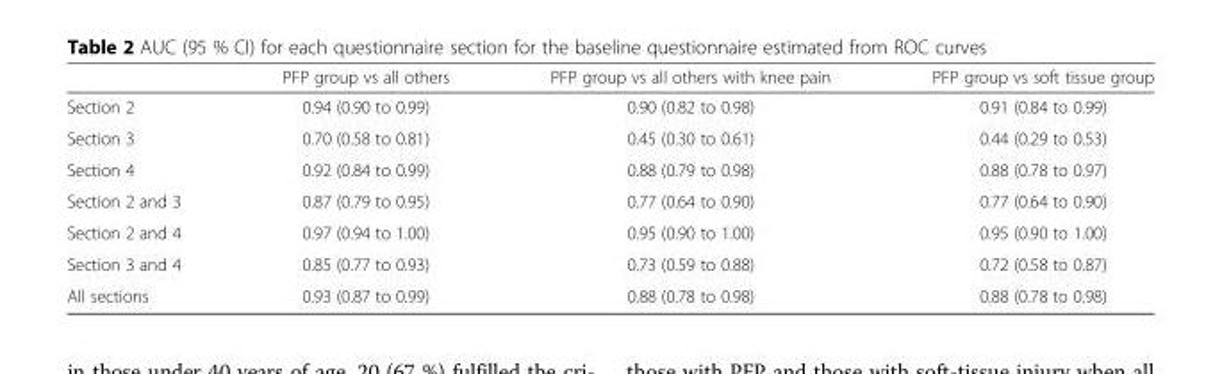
<table><thead><tr><td></td><td>PFP group vs all others</td><td>PFP group vs all others with knee pain</td><td>PFP group vs soft tissue group</td></tr></thead><tbody><tr><td>Section 2</td><td>0.94 (0.90 to 0.99)</td><td>0.90 (0.82 to 0.98)</td><td>0.91 (0.84 to 0.99)</td></tr><tr><td>Section 3</td><td>0.70 (0.58 to 0.81)</td><td>0.45 (0.30 to 0.61)</td><td>0.44 (0.29 to 0.53)</td></tr><tr><td>Section 4</td><td>0.92 (0.84 to 0.99)</td><td>0.88 (0.79 to 0.98)</td><td>0.88 (0.78 to 0.97)</td></tr><tr><td>Section 2 and 3</td><td>0.87 (0.79 to 0.95)</td><td>0.77 (0.64 to 0.90)</td><td>0.77 (0.64 to 0.90)</td></tr><tr><td>Section 2 and 4</td><td>0.97 (0.94 to 1.00)</td><td>0.95 (0.90 to 1.00)</td><td>0.95 (0.90 to 1.00)</td></tr><tr><td>Section 3 and 4</td><td>0.85 (0.77 to 0.93)</td><td>0.73 (0.59 to 0.88)</td><td>0.72 (0.58 to 0.87)</td></tr><tr><td>All sections</td><td>0.93 (0.87 to 0.99)</td><td>0.88 (0.78 to 0.98)</td><td>0.88 (0.78 to 0.98)</td></tr></tbody></table>